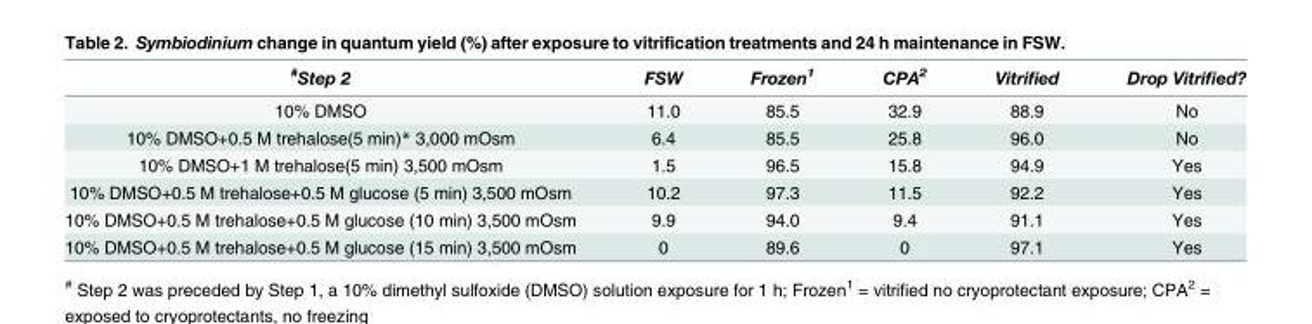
<table><thead><tr><td><sup>#</sup>Step 2</td><td>FSW</td><td>Frozen<sup>1</sup></td><td>CPA<sup>2</sup></td><td>Vitrified</td><td>Drop Vitrified?</td></tr></thead><tbody><tr><td>10% DMSO</td><td>11.0</td><td>85.5</td><td>32.9</td><td>88.9</td><td>No</td></tr><tr><td>10% DMSO+0.5 M trehalose(5 min)* 3,000 mOsm</td><td>6.4</td><td>85.5</td><td>25.8</td><td>96.0</td><td>No</td></tr><tr><td>10% DMSO+1 M trehalose(5 min) 3,500 mOsm</td><td>1.5</td><td>96.5</td><td>15.8</td><td>94.9</td><td>Yes</td></tr><tr><td>10% DMSO+0.5 M trehalose+0.5 M glucose (5 min) 3,500 mOsm</td><td>10.2</td><td>97.3</td><td>11.5</td><td>92.2</td><td>Yes</td></tr><tr><td>10% DMSO+0.5 M trehalose+0.5 M glucose (10 min) 3,500 mOsm</td><td>9.9</td><td>94.0</td><td>9.4</td><td>91.1</td><td>Yes</td></tr><tr><td>10% DMSO+0.5 M trehalose+0.5 M glucose (15 min) 3,500 mOsm</td><td>0</td><td>89.6</td><td>0</td><td>97.1</td><td>Yes</td></tr></tbody></table>